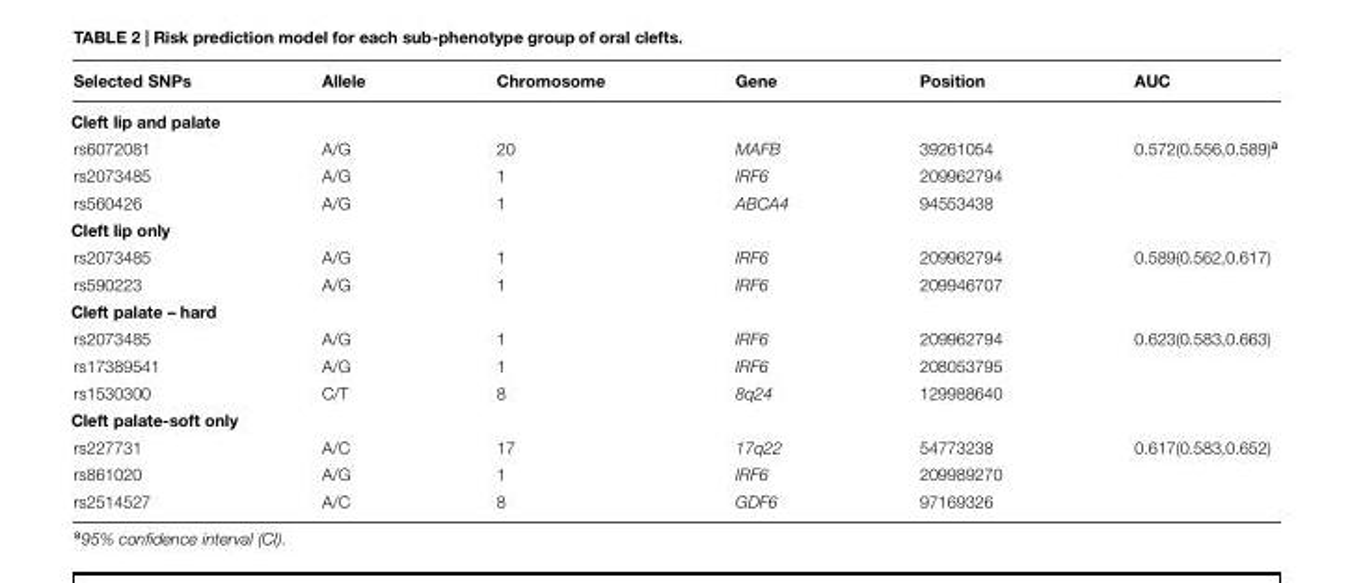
<table><thead><tr><td>Selected SNPs</td><td>Allele</td><td>Chromosome</td><td>Gene</td><td>Position</td><td>AUC</td></tr></thead><tbody><tr><td colspan="6">Cleft lip and palate</td></tr><tr><td>rs6072081</td><td>A/G</td><td>20</td><td>MAFB</td><td>39261054</td><td>0.572(0.556,0.589)<sup>a</sup></td></tr><tr><td>rs2073485</td><td>A/G</td><td>1</td><td>IRF6</td><td>209962794</td><td></td></tr><tr><td>rs560426</td><td>A/G</td><td>1</td><td>ABCA4</td><td>94553438</td><td></td></tr><tr><td colspan="6">Cleft lip only</td></tr><tr><td>rs2073485</td><td>A/G</td><td>1</td><td>IRF6</td><td>209962794</td><td>0.589(0.562,0.617)</td></tr><tr><td>rs590223</td><td>A/G</td><td>1</td><td>IRF6</td><td>209946707</td><td></td></tr><tr><td colspan="6">Cleft palate – hard</td></tr><tr><td>rs2073485</td><td>A/G</td><td>1</td><td>IRF6</td><td>209962794</td><td>0.623(0.583,0.663)</td></tr><tr><td>rs17389541</td><td>A/G</td><td>1</td><td>IRF6</td><td>208053795</td><td></td></tr><tr><td>rs1530300</td><td>C/T</td><td>8</td><td>8q24</td><td>129988640</td><td></td></tr><tr><td colspan="6">Cleft palate-soft only</td></tr><tr><td>rs227731</td><td>A/C</td><td>17</td><td>17q22</td><td>54773238</td><td>0.617(0.583,0.652)</td></tr><tr><td>rs861020</td><td>A/G</td><td>1</td><td>IRF6</td><td>209989270</td><td></td></tr><tr><td>rs2514527</td><td>A/C</td><td>8</td><td>GDF6</td><td>97169326</td><td></td></tr></tbody></table>